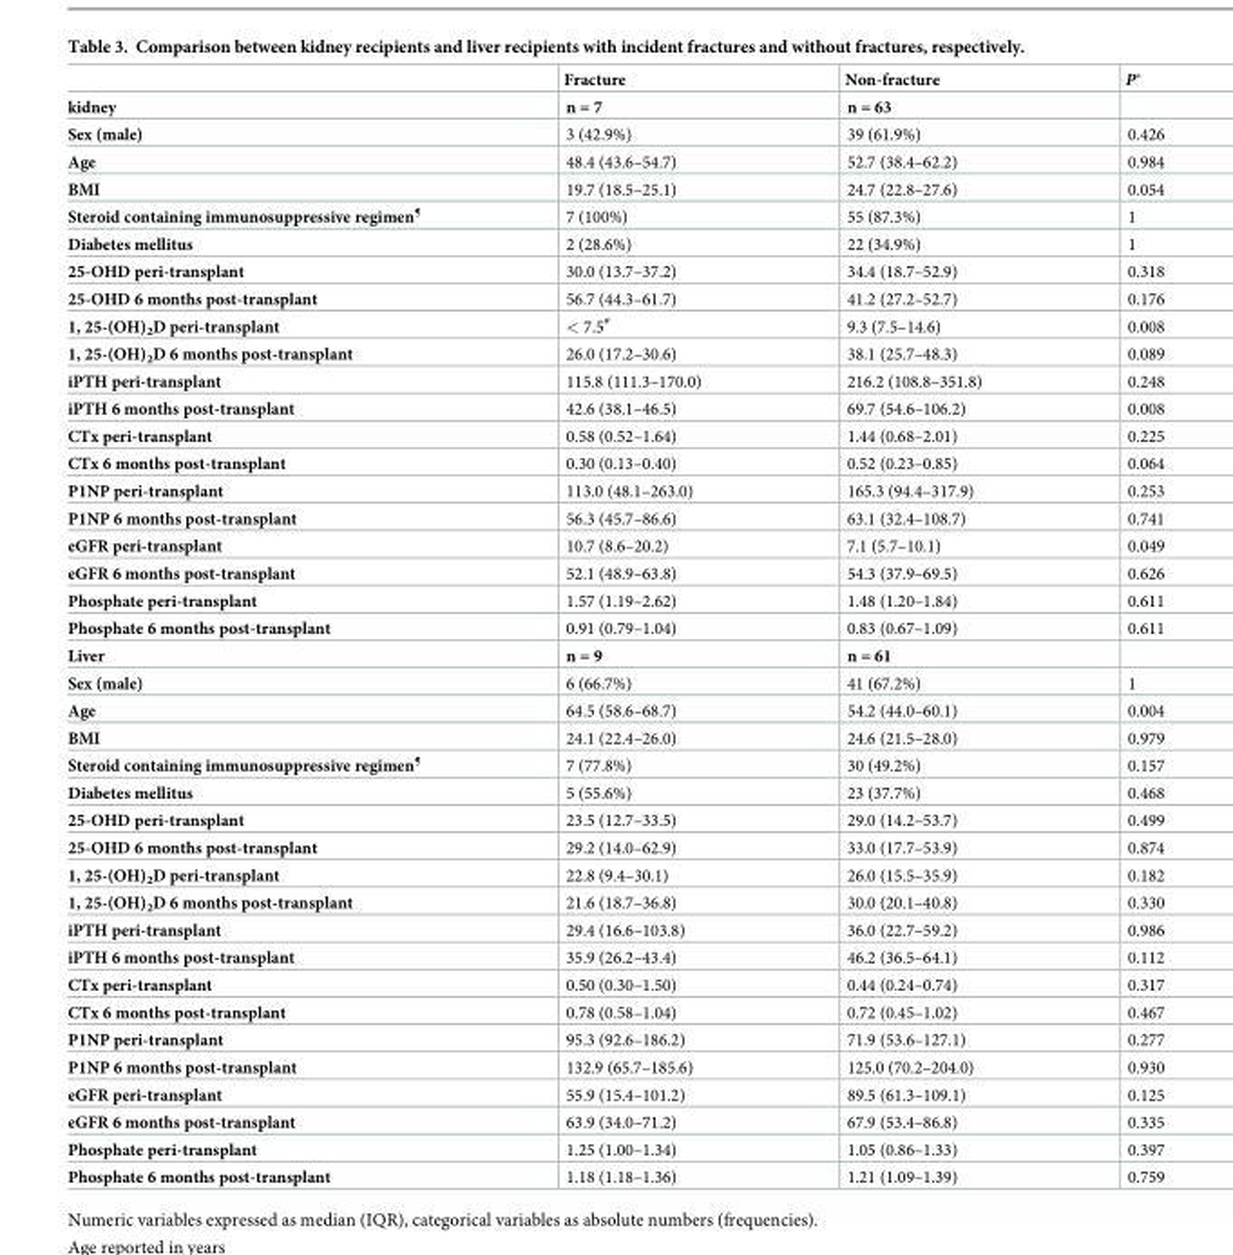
<table><thead><tr><td></td><td>Fracture</td><td>Non-fracture</td><td>P*</td></tr></thead><tbody><tr><td>kidney</td><td>n = 7</td><td>n = 63</td><td></td></tr><tr><td>Sex (male)</td><td>3 (42.9%)</td><td>39 (61.9%)</td><td>0.426</td></tr><tr><td>Age</td><td>48.4 (43.6–54.7)</td><td>52.7 (38.4–62.2)</td><td>0.984</td></tr><tr><td>BMI</td><td>19.7 (18.5–25.1)</td><td>24.7 (22.8–27.6)</td><td>0.054</td></tr><tr><td>Steroid containing immunosuppressive regimen<sup>¶</sup></td><td>7 (100%)</td><td>55 (87.3%)</td><td>1</td></tr><tr><td>Diabetes mellitus</td><td>2 (28.6%)</td><td>22 (34.9%)</td><td>1</td></tr><tr><td>25-OHD peri-transplant</td><td>30.0 (13.7–37.2)</td><td>34.4 (18.7–52.9)</td><td>0.318</td></tr><tr><td>25-OHD 6 months post-transplant</td><td>56.7 (44.3–61.7)</td><td>41.2 (27.2–52.7)</td><td>0.176</td></tr><tr><td>1, 25-(OH)<sub>2</sub>D peri-transplant</td><td>&lt; 7.5<sup>#</sup></td><td>9.3 (7.5–14.6)</td><td>0.008</td></tr><tr><td>1, 25-(OH)<sub>2</sub>D 6 months post-transplant</td><td>26.0 (17.2–30.6)</td><td>38.1 (25.7–48.3)</td><td>0.089</td></tr><tr><td>iPTH peri-transplant</td><td>115.8 (111.3–170.0)</td><td>216.2 (108.8–351.8)</td><td>0.248</td></tr><tr><td>iPTH 6 months post-transplant</td><td>42.6 (38.1–46.5)</td><td>69.7 (54.6–106.2)</td><td>0.008</td></tr><tr><td>CTx peri-transplant</td><td>0.58 (0.52–1.64)</td><td>1.44 (0.68–2.01)</td><td>0.225</td></tr><tr><td>CTx 6 months post-transplant</td><td>0.30 (0.13–0.40)</td><td>0.52 (0.23–0.85)</td><td>0.064</td></tr><tr><td>P1NP peri-transplant</td><td>113.0 (48.1–263.0)</td><td>165.3 (94.4–317.9)</td><td>0.253</td></tr><tr><td>P1NP 6 months post-transplant</td><td>56.3 (45.7–86.6)</td><td>63.1 (32.4–108.7)</td><td>0.741</td></tr><tr><td>eGFR peri-transplant</td><td>10.7 (8.6–20.2)</td><td>7.1 (5.7–10.1)</td><td>0.049</td></tr><tr><td>eGFR 6 months post-transplant</td><td>52.1 (48.9–63.8)</td><td>54.3 (37.9–69.5)</td><td>0.626</td></tr><tr><td>Phosphate peri-transplant</td><td>1.57 (1.19–2.62)</td><td>1.48 (1.20–1.84)</td><td>0.611</td></tr><tr><td>Phosphate 6 months post-transplant</td><td>0.91 (0.79–1.04)</td><td>0.83 (0.67–1.09)</td><td>0.611</td></tr><tr><td>Liver</td><td>n = 9</td><td>n = 61</td><td></td></tr><tr><td>Sex (male)</td><td>6 (66.7%)</td><td>41 (67.2%)</td><td>1</td></tr><tr><td>Age</td><td>64.5 (58.6–68.7)</td><td>54.2 (44.0–60.1)</td><td>0.004</td></tr><tr><td>BMI</td><td>24.1 (22.4–26.0)</td><td>24.6 (21.5–28.0)</td><td>0.979</td></tr><tr><td>Steroid containing immunosuppressive regimen<sup>¶</sup></td><td>7 (77.8%)</td><td>30 (49.2%)</td><td>0.157</td></tr><tr><td>Diabetes mellitus</td><td>5 (55.6%)</td><td>23 (37.7%)</td><td>0.468</td></tr><tr><td>25-OHD peri-transplant</td><td>23.5 (12.7–33.5)</td><td>29.0 (14.2–53.7)</td><td>0.499</td></tr><tr><td>25-OHD 6 months post-transplant</td><td>29.2 (14.0–62.9)</td><td>33.0 (17.7–53.9)</td><td>0.874</td></tr><tr><td>1, 25-(OH)<sub>2</sub>D peri-transplant</td><td>22.8 (9.4–30.1)</td><td>26.0 (15.5–35.9)</td><td>0.182</td></tr><tr><td>1, 25-(OH)<sub>2</sub>D 6 months post-transplant</td><td>21.6 (18.7–36.8)</td><td>30.0 (20.1–40.8)</td><td>0.330</td></tr><tr><td>iPTH peri-transplant</td><td>29.4 (16.6–103.8)</td><td>36.0 (22.7–59.2)</td><td>0.986</td></tr><tr><td>iPTH 6 months post-transplant</td><td>35.9 (26.2–43.4)</td><td>46.2 (36.5–64.1)</td><td>0.112</td></tr><tr><td>CTx peri-transplant</td><td>0.50 (0.30–1.50)</td><td>0.44 (0.24–0.74)</td><td>0.317</td></tr><tr><td>CTx 6 months post-transplant</td><td>0.78 (0.58–1.04)</td><td>0.72 (0.45–1.02)</td><td>0.467</td></tr><tr><td>P1NP peri-transplant</td><td>95.3 (92.6–186.2)</td><td>71.9 (53.6–127.1)</td><td>0.277</td></tr><tr><td>P1NP 6 months post-transplant</td><td>132.9 (65.7–185.6)</td><td>125.0 (70.2–204.0)</td><td>0.930</td></tr><tr><td>eGFR peri-transplant</td><td>55.9 (15.4–101.2)</td><td>89.5 (61.3–109.1)</td><td>0.125</td></tr><tr><td>eGFR 6 months post-transplant</td><td>63.9 (34.0–71.2)</td><td>67.9 (53.4–86.8)</td><td>0.335</td></tr><tr><td>Phosphate peri-transplant</td><td>1.25 (1.00–1.34)</td><td>1.05 (0.86–1.33)</td><td>0.397</td></tr><tr><td>Phosphate 6 months post-transplant</td><td>1.18 (1.18–1.36)</td><td>1.21 (1.09–1.39)</td><td>0.759</td></tr></tbody></table>